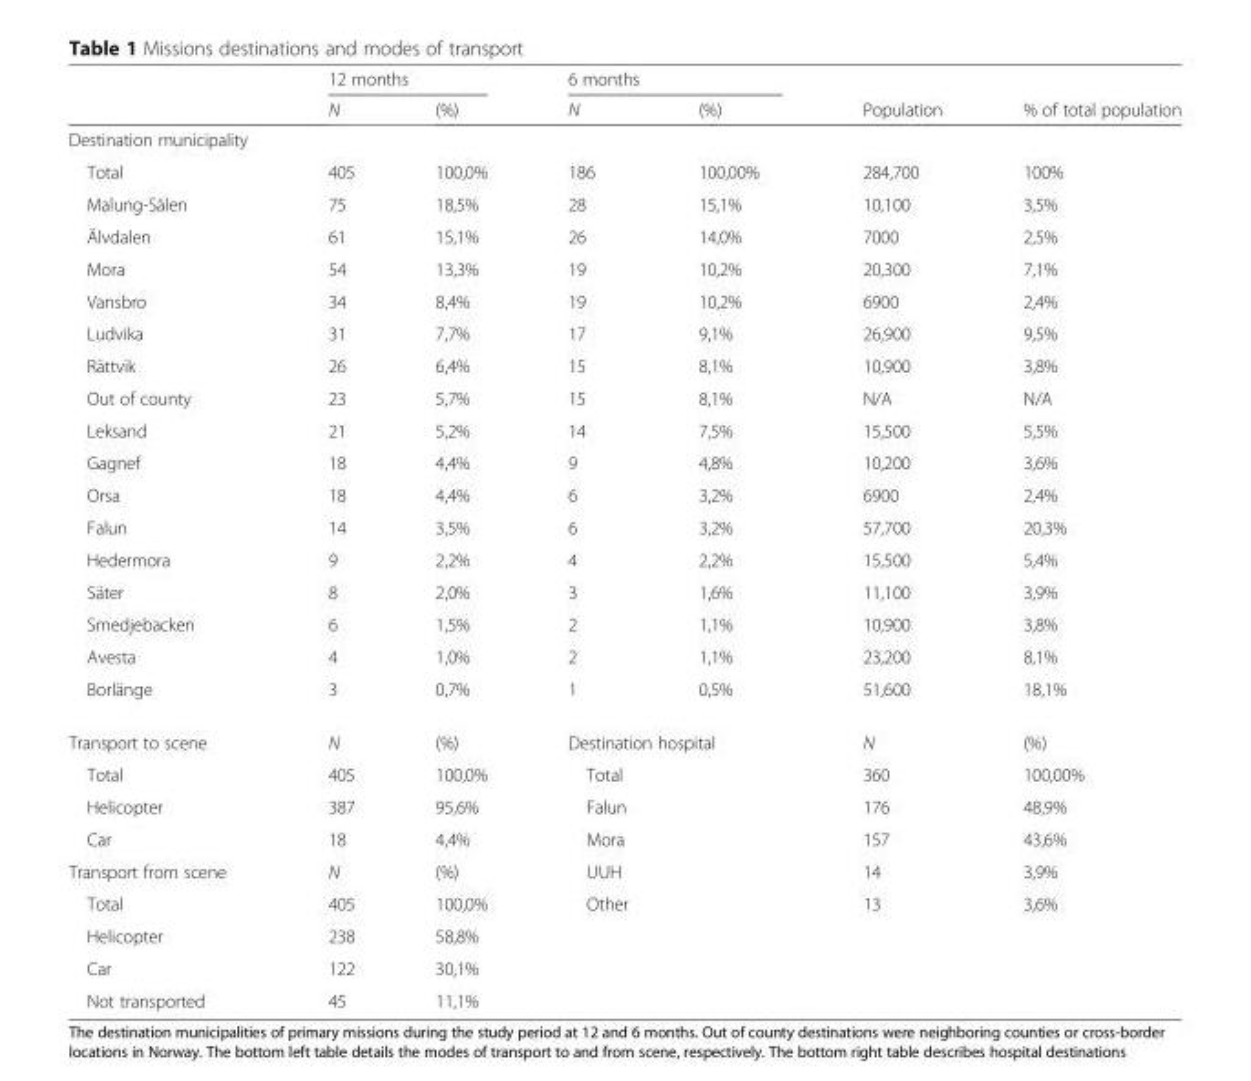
<table><thead><tr><td rowspan="2"></td><td colspan="2">12 months</td><td colspan="2">6 months</td><td rowspan="2">Population</td><td rowspan="2">% of total population</td></tr><tr><td>N</td><td>(%)</td><td>N</td><td>(%)</td></tr></thead><tbody><tr><td colspan="7">Destination municipality</td></tr><tr><td>Total</td><td>405</td><td>100,0%</td><td>186</td><td>100,00%</td><td>284,700</td><td>100%</td></tr><tr><td>Malung-Sälen</td><td>75</td><td>18,5%</td><td>28</td><td>15,1%</td><td>10,100</td><td>3,5%</td></tr><tr><td>Älvdalen</td><td>61</td><td>15,1%</td><td>26</td><td>14,0%</td><td>7000</td><td>2,5%</td></tr><tr><td>Mora</td><td>54</td><td>13,3%</td><td>19</td><td>10,2%</td><td>20,300</td><td>7,1%</td></tr><tr><td>Vansbro</td><td>34</td><td>8,4%</td><td>19</td><td>10,2%</td><td>6900</td><td>2,4%</td></tr><tr><td>Ludvika</td><td>31</td><td>7,7%</td><td>17</td><td>9,1%</td><td>26,900</td><td>9,5%</td></tr><tr><td>Rättvik</td><td>26</td><td>6,4%</td><td>15</td><td>8,1%</td><td>10,900</td><td>3,8%</td></tr><tr><td>Out of county</td><td>23</td><td>5,7%</td><td>15</td><td>8,1%</td><td>N/A</td><td>N/A</td></tr><tr><td>Leksand</td><td>21</td><td>5,2%</td><td>14</td><td>7,5%</td><td>15,500</td><td>5,5%</td></tr><tr><td>Gagnef</td><td>18</td><td>4,4%</td><td>9</td><td>4,8%</td><td>10,200</td><td>3,6%</td></tr><tr><td>Orsa</td><td>18</td><td>4,4%</td><td>6</td><td>3,2%</td><td>6900</td><td>2,4%</td></tr><tr><td>Falun</td><td>14</td><td>3,5%</td><td>6</td><td>3,2%</td><td>57,700</td><td>20,3%</td></tr><tr><td>Hedermora</td><td>9</td><td>2,2%</td><td>4</td><td>2,2%</td><td>15,500</td><td>5,4%</td></tr><tr><td>Säter</td><td>8</td><td>2,0%</td><td>3</td><td>1,6%</td><td>11,100</td><td>3,9%</td></tr><tr><td>Smedjebacken</td><td>6</td><td>1,5%</td><td>2</td><td>1,1%</td><td>10,900</td><td>3,8%</td></tr><tr><td>Avesta</td><td>4</td><td>1,0%</td><td>2</td><td>1,1%</td><td>23,200</td><td>8,1%</td></tr><tr><td>Borlänge</td><td>3</td><td>0,7%</td><td>1</td><td>0,5%</td><td>51,600</td><td>18,1%</td></tr><tr><td>Transport to scene</td><td>N</td><td>(%)</td><td colspan="2">Destination hospital</td><td>N</td><td>(%)</td></tr><tr><td>Total</td><td>405</td><td>100,0%</td><td colspan="2">Total</td><td>360</td><td>100,00%</td></tr><tr><td>Helicopter</td><td>387</td><td>95,6%</td><td colspan="2">Falun</td><td>176</td><td>48,9%</td></tr><tr><td>Car</td><td>18</td><td>4,4%</td><td colspan="2">Mora</td><td>157</td><td>43,6%</td></tr><tr><td>Transport from scene</td><td>N</td><td>(%)</td><td colspan="2">UUH</td><td>14</td><td>3,9%</td></tr><tr><td>Total</td><td>405</td><td>100,0%</td><td colspan="2">Other</td><td>13</td><td>3,6%</td></tr><tr><td>Helicopter</td><td>238</td><td>58,8%</td><td></td><td></td><td></td><td></td></tr><tr><td>Car</td><td>122</td><td>30,1%</td><td></td><td></td><td></td><td></td></tr><tr><td>Not transported</td><td>45</td><td>11,1%</td><td></td><td></td><td></td><td></td></tr></tbody></table>